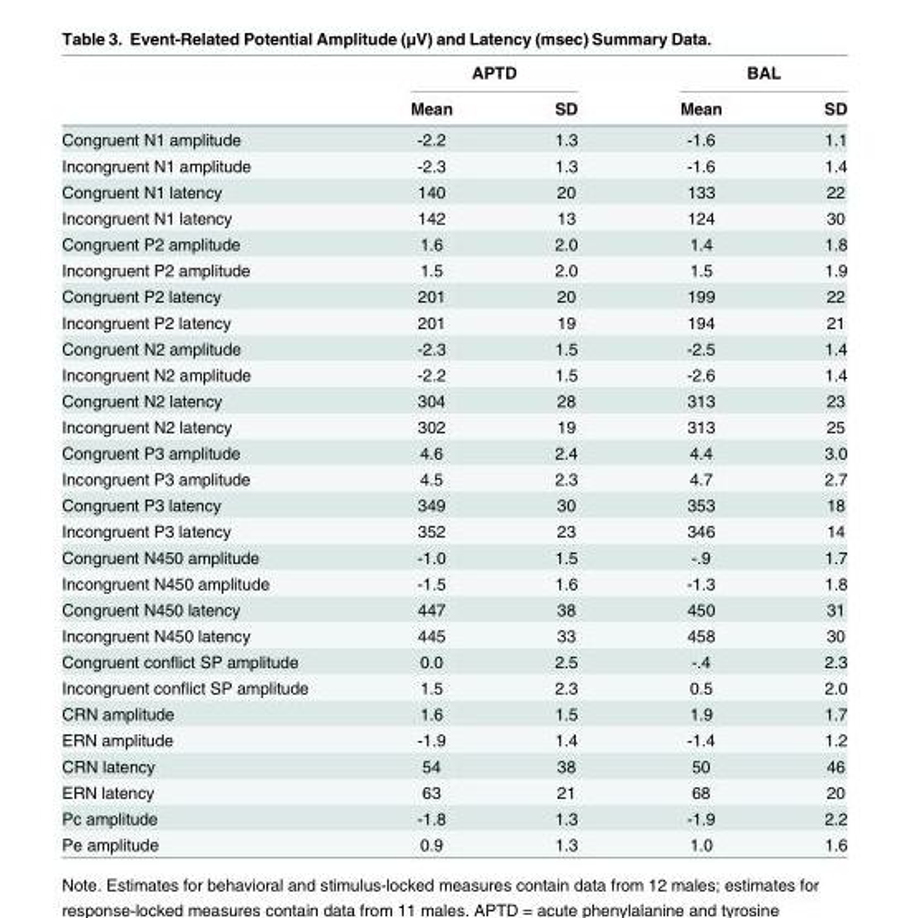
<table><thead><tr><td rowspan="2"></td><td colspan="2">APTD</td><td colspan="2">BAL</td></tr><tr><td>Mean</td><td>SD</td><td>Mean</td><td>SD</td></tr></thead><tbody><tr><td>Congruent N1 amplitude</td><td>-2.2</td><td>1.3</td><td>-1.6</td><td>1.1</td></tr><tr><td>Incongruent N1 amplitude</td><td>-2.3</td><td>1.3</td><td>-1.6</td><td>1.4</td></tr><tr><td>Congruent N1 latency</td><td>140</td><td>20</td><td>133</td><td>22</td></tr><tr><td>Incongruent N1 latency</td><td>142</td><td>13</td><td>124</td><td>30</td></tr><tr><td>Congruent P2 amplitude</td><td>1.6</td><td>2.0</td><td>1.4</td><td>1.8</td></tr><tr><td>Incongruent P2 amplitude</td><td>1.5</td><td>2.0</td><td>1.5</td><td>1.9</td></tr><tr><td>Congruent P2 latency</td><td>201</td><td>20</td><td>199</td><td>22</td></tr><tr><td>Incongruent P2 latency</td><td>201</td><td>19</td><td>194</td><td>21</td></tr><tr><td>Congruent N2 amplitude</td><td>-2.3</td><td>1.5</td><td>-2.5</td><td>1.4</td></tr><tr><td>Incongruent N2 amplitude</td><td>-2.2</td><td>1.5</td><td>-2.6</td><td>1.4</td></tr><tr><td>Congruent N2 latency</td><td>304</td><td>28</td><td>313</td><td>23</td></tr><tr><td>Incongruent N2 latency</td><td>302</td><td>19</td><td>313</td><td>25</td></tr><tr><td>Congruent P3 amplitude</td><td>4.6</td><td>2.4</td><td>4.4</td><td>3.0</td></tr><tr><td>Incongruent P3 amplitude</td><td>4.5</td><td>2.3</td><td>4.7</td><td>2.7</td></tr><tr><td>Congruent P3 latency</td><td>349</td><td>30</td><td>353</td><td>18</td></tr><tr><td>Incongruent P3 latency</td><td>352</td><td>23</td><td>346</td><td>14</td></tr><tr><td>Congruent N450 amplitude</td><td>-1.0</td><td>1.5</td><td>-.9</td><td>1.7</td></tr><tr><td>Incongruent N450 amplitude</td><td>-1.5</td><td>1.6</td><td>-1.3</td><td>1.8</td></tr><tr><td>Congruent N450 latency</td><td>447</td><td>38</td><td>450</td><td>31</td></tr><tr><td>Incongruent N450 latency</td><td>445</td><td>33</td><td>458</td><td>30</td></tr><tr><td>Congruent conflict SP amplitude</td><td>0.0</td><td>2.5</td><td>-.4</td><td>2.3</td></tr><tr><td>Incongruent conflict SP amplitude</td><td>1.5</td><td>2.3</td><td>0.5</td><td>2.0</td></tr><tr><td>CRN amplitude</td><td>1.6</td><td>1.5</td><td>1.9</td><td>1.7</td></tr><tr><td>ERN amplitude</td><td>-1.9</td><td>1.4</td><td>-1.4</td><td>1.2</td></tr><tr><td>CRN latency</td><td>54</td><td>38</td><td>50</td><td>46</td></tr><tr><td>ERN latency</td><td>63</td><td>21</td><td>68</td><td>20</td></tr><tr><td>Pc amplitude</td><td>-1.8</td><td>1.3</td><td>-1.9</td><td>2.2</td></tr><tr><td>Pe amplitude</td><td>0.9</td><td>1.3</td><td>1.0</td><td>1.6</td></tr></tbody></table>